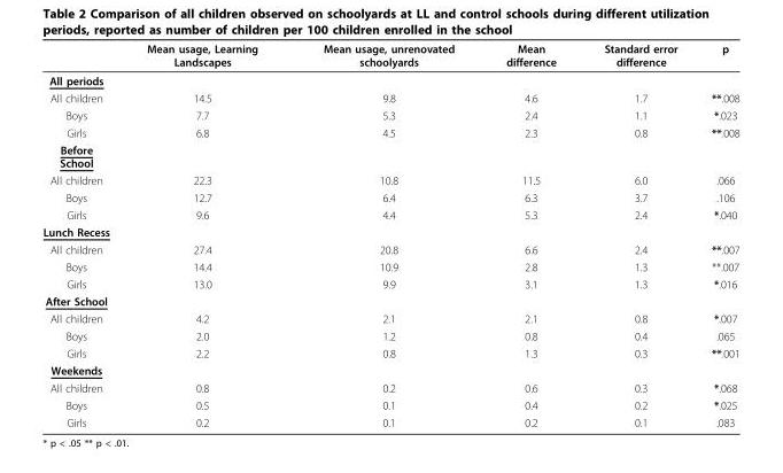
<table><thead><tr><td></td><td>Mean usage, Learning Landscapes</td><td>Mean usage, unrenovated schoolyards</td><td>Mean difference</td><td>Standard error difference</td><td>p</td></tr></thead><tbody><tr><td colspan="6">All periods</td></tr><tr><td>All children</td><td>14.5</td><td>9.8</td><td>4.6</td><td>1.7</td><td>**.008</td></tr><tr><td>Boys</td><td>7.7</td><td>5.3</td><td>2.4</td><td>1.1</td><td>*.023</td></tr><tr><td>Girls</td><td>6.8</td><td>4.5</td><td>2.3</td><td>0.8</td><td>**.008</td></tr><tr><td colspan="6">Before School</td></tr><tr><td>All children</td><td>22.3</td><td>10.8</td><td>11.5</td><td>6.0</td><td>.066</td></tr><tr><td>Boys</td><td>12.7</td><td>6.4</td><td>6.3</td><td>3.7</td><td>.106</td></tr><tr><td>Girls</td><td>9.6</td><td>4.4</td><td>5.3</td><td>2.4</td><td>*.040</td></tr><tr><td colspan="6">Lunch Recess</td></tr><tr><td>All children</td><td>27.4</td><td>20.8</td><td>6.6</td><td>2.4</td><td>**.007</td></tr><tr><td>Boys</td><td>14.4</td><td>10.9</td><td>2.8</td><td>1.3</td><td>**.007</td></tr><tr><td>Girls</td><td>13.0</td><td>9.9</td><td>3.1</td><td>1.3</td><td>*.016</td></tr><tr><td colspan="6">After School</td></tr><tr><td>All children</td><td>4.2</td><td>2.1</td><td>2.1</td><td>0.8</td><td>*.007</td></tr><tr><td>Boys</td><td>2.0</td><td>1.2</td><td>0.8</td><td>0.4</td><td>.065</td></tr><tr><td>Girls</td><td>2.2</td><td>0.8</td><td>1.3</td><td>0.3</td><td>**.001</td></tr><tr><td colspan="6">Weekends</td></tr><tr><td>All children</td><td>0.8</td><td>0.2</td><td>0.6</td><td>0.3</td><td>*.068</td></tr><tr><td>Boys</td><td>0.5</td><td>0.1</td><td>0.4</td><td>0.2</td><td>*.025</td></tr><tr><td>Girls</td><td>0.2</td><td>0.1</td><td>0.2</td><td>0.1</td><td>.083</td></tr></tbody></table>